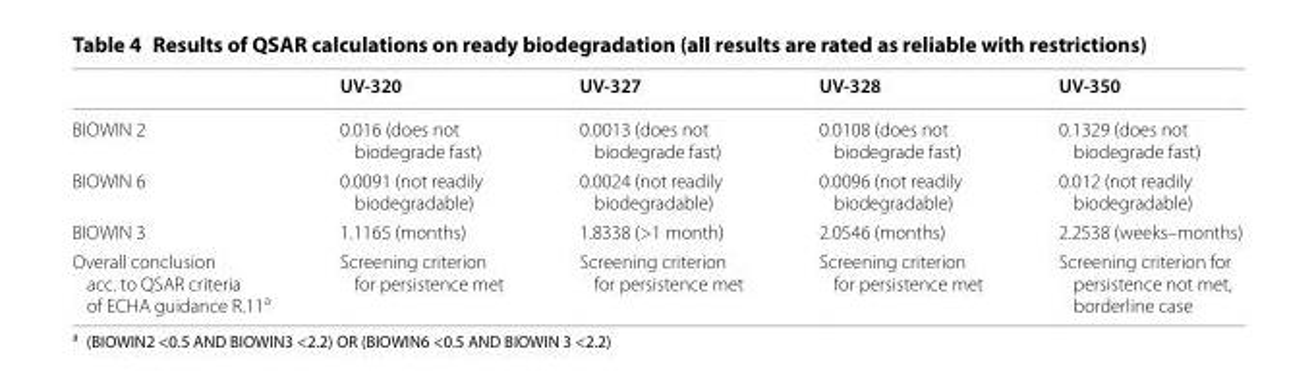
<table><thead><tr><td></td><td>UV-320</td><td>UV-327</td><td>UV-328</td><td>UV-350</td></tr></thead><tbody><tr><td>BIOWIN 2</td><td>0.016 (does not biodegrade fast)</td><td>0.0013 (does not biodegrade fast)</td><td>0.0108 (does not biodegrade fast)</td><td>0.1329 (does not biodegrade fast)</td></tr><tr><td>BIOWIN 6</td><td>0.0091 (not readily biodegradable)</td><td>0.0024 (not readily biodegradable)</td><td>0.0096 (not readily biodegradable)</td><td>0.012 (not readily biodegradable)</td></tr><tr><td>BIOWIN 3</td><td>1.1165 (months)</td><td>1.8338 (&gt;1 month)</td><td>2.0546 (months)</td><td>2.2538 (weeks–months)</td></tr><tr><td>Overall conclusion acc. to QSAR criteria of ECHA guidance R.11<sup>a</sup></td><td>Screening criterion for persistence met</td><td>Screening criterion for persistence met</td><td>Screening criterion for persistence met</td><td>Screening criterion for persistence not met, borderline case</td></tr></tbody></table>